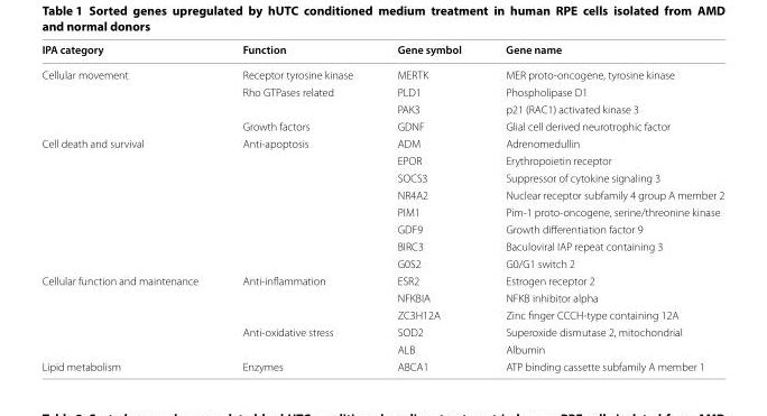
<table><thead><tr><td>IPA category</td><td>Function</td><td>Gene symbol</td><td>Gene name</td></tr></thead><tbody><tr><td rowspan="4">Cellular movement</td><td>Receptor tyrosine kinase</td><td>MERTK</td><td>MER proto-oncogene, tyrosine kinase</td></tr><tr><td>Rho GTPases related</td><td>PLD1</td><td>Phospholipase D1</td></tr><tr><td></td><td>PAK3</td><td>p21 (RAC1) activated kinase 3</td></tr><tr><td>Growth factors</td><td>GDNF</td><td>Glial cell derived neurotrophic factor</td></tr><tr><td rowspan="8">Cell death and survival</td><td>Anti-apoptosis</td><td>ADM</td><td>Adrenomedullin</td></tr><tr><td></td><td>EPOR</td><td>Erythropoietin receptor</td></tr><tr><td></td><td>SOCS3</td><td>Suppressor of cytokine signaling 3</td></tr><tr><td></td><td>NR4A2</td><td>Nuclear receptor subfamily 4 group A member 2</td></tr><tr><td></td><td>PIM1</td><td>Pim-1 proto-oncogene, serine/threonine kinase</td></tr><tr><td></td><td>GDF9</td><td>Growth differentiation factor 9</td></tr><tr><td></td><td>BIRC3</td><td>Baculoviral IAP repeat containing 3</td></tr><tr><td></td><td>G0S2</td><td>G0/G1 switch 2</td></tr><tr><td rowspan="5">Cellular function and maintenance</td><td>Anti-inflammation</td><td>ESR2</td><td>Estrogen receptor 2</td></tr><tr><td></td><td>NFKBIA</td><td>NFKB inhibitor alpha</td></tr><tr><td></td><td>ZC3H12A</td><td>Zinc finger CCCH-type containing 12A</td></tr><tr><td>Anti-oxidative stress</td><td>SOD2</td><td>Superoxide dismutase 2, mitochondrial</td></tr><tr><td></td><td>ALB</td><td>Albumin</td></tr><tr><td>Lipid metabolism</td><td>Enzymes</td><td>ABCA1</td><td>ATP binding cassette subfamily A member 1</td></tr></tbody></table>